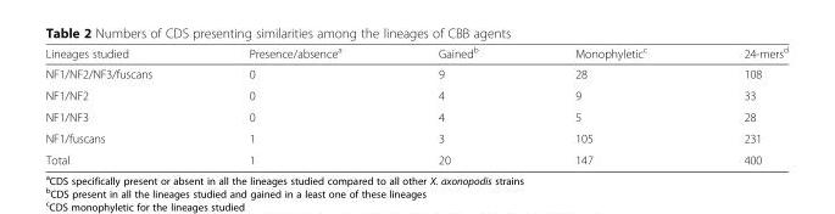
<table><thead><tr><td>Lineages studied</td><td>Presence/absence<sup>a</sup></td><td>Gained<sup>b</sup></td><td>Monophyletic<sup>c</sup></td><td>24-mers<sup>d</sup></td></tr></thead><tbody><tr><td>NF1/NF2/NF3/fuscans</td><td>0</td><td>9</td><td>28</td><td>108</td></tr><tr><td>NF1/NF2</td><td>0</td><td>4</td><td>9</td><td>33</td></tr><tr><td>NF1/NF3</td><td>0</td><td>4</td><td>5</td><td>28</td></tr><tr><td>NF1/fuscans</td><td>1</td><td>3</td><td>105</td><td>231</td></tr><tr><td>Total</td><td>1</td><td>20</td><td>147</td><td>400</td></tr></tbody></table>